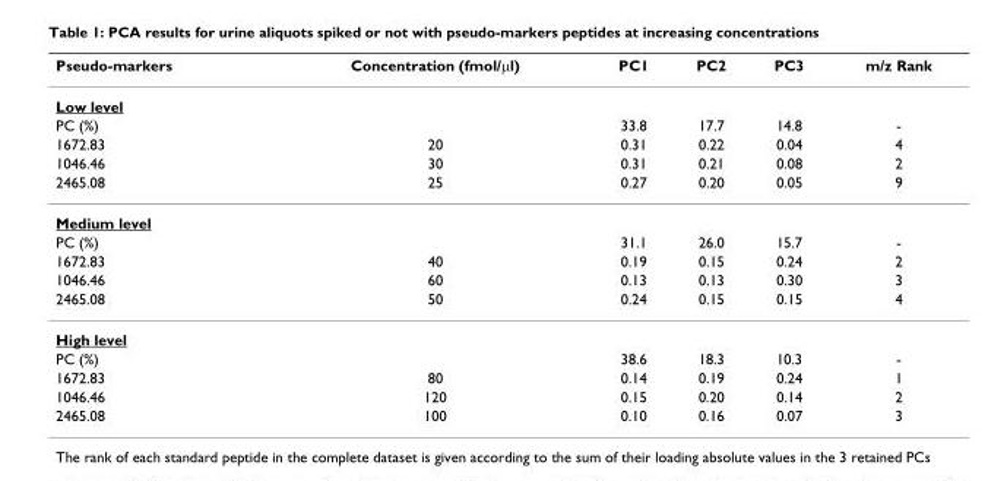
<table><thead><tr><td>Pseudo-markers</td><td>Concentration (fmol/μl)</td><td>PC1</td><td>PC2</td><td>PC3</td><td>m/z Rank</td></tr></thead><tbody><tr><td colspan="6">Low level</td></tr><tr><td>PC (%)</td><td></td><td>33.8</td><td>17.7</td><td>14.8</td><td>-</td></tr><tr><td>1672.83</td><td>20</td><td>0.31</td><td>0.22</td><td>0.04</td><td>4</td></tr><tr><td>1046.46</td><td>30</td><td>0.31</td><td>0.21</td><td>0.08</td><td>2</td></tr><tr><td>2465.08</td><td>25</td><td>0.27</td><td>0.20</td><td>0.05</td><td>9</td></tr><tr><td colspan="6">Medium level</td></tr><tr><td>PC (%)</td><td></td><td>31.1</td><td>26.0</td><td>15.7</td><td>-</td></tr><tr><td>1672.83</td><td>40</td><td>0.19</td><td>0.15</td><td>0.24</td><td>2</td></tr><tr><td>1046.46</td><td>60</td><td>0.13</td><td>0.13</td><td>0.30</td><td>3</td></tr><tr><td>2465.08</td><td>50</td><td>0.24</td><td>0.15</td><td>0.15</td><td>4</td></tr><tr><td colspan="6">High level</td></tr><tr><td>PC (%)</td><td></td><td>38.6</td><td>18.3</td><td>10.3</td><td>-</td></tr><tr><td>1672.83</td><td>80</td><td>0.14</td><td>0.19</td><td>0.24</td><td>1</td></tr><tr><td>1046.46</td><td>120</td><td>0.15</td><td>0.20</td><td>0.14</td><td>2</td></tr><tr><td>2465.08</td><td>100</td><td>0.10</td><td>0.16</td><td>0.07</td><td>3</td></tr></tbody></table>